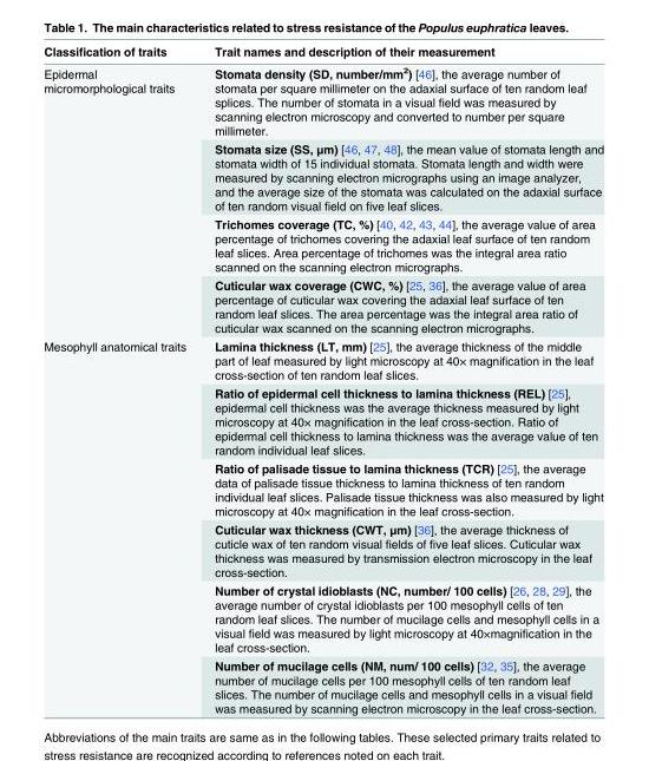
<table><thead><tr><td>Classification of traits</td><td>Trait names and description of their measurement</td></tr></thead><tbody><tr><td rowspan="4">Epidermal micromorphological traits</td><td>Stomata density (SD, number/mm<sup>2</sup>) [46], the average number of stomata per square millimeter on the adaxial surface of ten random leaf splices. The number of stomata in a visual field was measured by scanning electron microscopy and converted to number per square millimeter.</td></tr><tr><td>Stomata size (SS, μm) [46, 47, 48], the mean value of stomata length and stomata width of 15 individual stomata. Stomata length and width were measured by scanning electron micrographs using an image analyzer, and the average size of the stomata was calculated on the adaxial surface of ten random visual field on five leaf slices.</td></tr><tr><td>Trichomes coverage (TC, %) [40, 42, 43, 44], the average value of area percentage of trichomes covering the adaxial leaf surface of ten random leaf slices. Area percentage of trichomes was the integral area ratio scanned on the scanning electron micrographs.</td></tr><tr><td>Cuticular wax coverage (CWC, %) [25, 36], the average value of area percentage of cuticular wax covering the adaxial leaf surface of ten random leaf slices. The area percentage was the integral area ratio of cuticular wax scanned on the scanning electron micrographs.</td></tr><tr><td rowspan="6">Mesophyll anatomical traits</td><td>Lamina thickness (LT, mm) [25], the average thickness of the middle part of leaf measured by light microscopy at 40× magnification in the leaf cross-section of ten random leaf slices.</td></tr><tr><td>Ratio of epidermal cell thickness to lamina thickness (REL) [25], epidermal cell thickness was the average thickness measured by light microscopy at 40× magnification in the leaf cross-section. Ratio of epidermal cell thickness to lamina thickness was the average value of ten random individual leaf slices.</td></tr><tr><td>Ratio of palisade tissue to lamina thickness (TCR) [25], the average data of palisade tissue thickness to lamina thickness of ten random individual leaf slices. Palisade tissue thickness was also measured by light microscopy at 40× magnification in the leaf cross-section.</td></tr><tr><td>Cuticular wax thickness (CWT, μm) [36], the average thickness of cuticle wax of ten random visual fields of five leaf slices. Cuticular wax thickness was measured by transmission electron microscopy in the leaf cross-section.</td></tr><tr><td>Number of crystal idioblasts (NC, number/ 100 cells) [26, 28, 29], the average number of crystal idioblasts per 100 mesophyll cells of ten random leaf slices. The number of mucilage cells and mesophyll cells in a visual field was measured by light microscopy at 40×magnification in the leaf cross-section.</td></tr><tr><td>Number of mucilage cells (NM, num/ 100 cells) [32, 35], the average number of mucilage cells per 100 mesophyll cells of ten random leaf slices. The number of mucilage cells and mesophyll cells in a visual field was measured by scanning electron microscopy in the leaf cross-section.</td></tr></tbody></table>